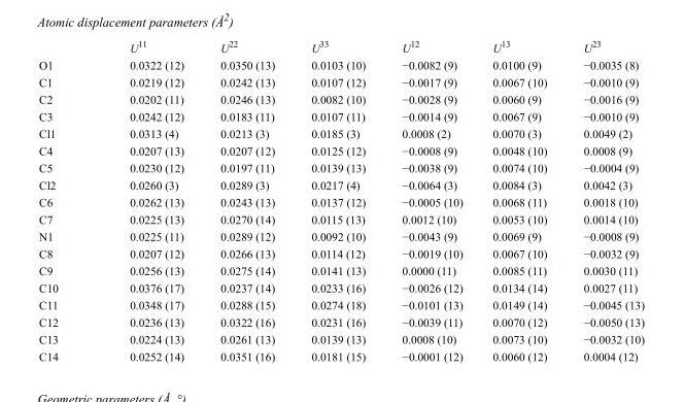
<table><thead><tr><td></td><td>U<sup>11</sup></td><td>U<sup>22</sup></td><td>U<sup>33</sup></td><td>U<sup>12</sup></td><td>U<sup>13</sup></td><td>U<sup>23</sup></td></tr></thead><tbody><tr><td>O1</td><td>0.0322 (12)</td><td>0.0350 (13)</td><td>0.0103 (10)</td><td>−0.0082 (9)</td><td>0.0100 (9)</td><td>−0.0035 (8)</td></tr><tr><td>C1</td><td>0.0219 (12)</td><td>0.0242 (13)</td><td>0.0107 (12)</td><td>−0.0017 (9)</td><td>0.0067 (10)</td><td>−0.0010 (9)</td></tr><tr><td>C2</td><td>0.0202 (11)</td><td>0.0246 (13)</td><td>0.0082 (10)</td><td>−0.0028 (9)</td><td>0.0060 (9)</td><td>−0.0016 (9)</td></tr><tr><td>C3</td><td>0.0242 (12)</td><td>0.0183 (11)</td><td>0.0107 (11)</td><td>−0.0014 (9)</td><td>0.0067 (9)</td><td>−0.0010 (9)</td></tr><tr><td>Cl1</td><td>0.0313 (4)</td><td>0.0213 (3)</td><td>0.0185 (3)</td><td>0.0008 (2)</td><td>0.0070 (3)</td><td>0.0049 (2)</td></tr><tr><td>C4</td><td>0.0207 (13)</td><td>0.0207 (12)</td><td>0.0125 (12)</td><td>−0.0008 (9)</td><td>0.0048 (10)</td><td>0.0008 (9)</td></tr><tr><td>C5</td><td>0.0230 (12)</td><td>0.0197 (11)</td><td>0.0139 (13)</td><td>−0.0038 (9)</td><td>0.0074 (10)</td><td>−0.0004 (9)</td></tr><tr><td>Cl2</td><td>0.0260 (3)</td><td>0.0289 (3)</td><td>0.0217 (4)</td><td>−0.0064 (3)</td><td>0.0084 (3)</td><td>0.0042 (3)</td></tr><tr><td>C6</td><td>0.0262 (13)</td><td>0.0243 (13)</td><td>0.0137 (12)</td><td>−0.0005 (10)</td><td>0.0068 (11)</td><td>0.0018 (10)</td></tr><tr><td>C7</td><td>0.0225 (13)</td><td>0.0270 (14)</td><td>0.0115 (13)</td><td>0.0012 (10)</td><td>0.0053 (10)</td><td>0.0014 (10)</td></tr><tr><td>N1</td><td>0.0225 (11)</td><td>0.0289 (12)</td><td>0.0092 (10)</td><td>−0.0043 (9)</td><td>0.0069 (9)</td><td>−0.0008 (9)</td></tr><tr><td>C8</td><td>0.0207 (12)</td><td>0.0266 (13)</td><td>0.0114 (12)</td><td>−0.0019 (10)</td><td>0.0067 (10)</td><td>−0.0032 (9)</td></tr><tr><td>C9</td><td>0.0256 (13)</td><td>0.0275 (14)</td><td>0.0141 (13)</td><td>0.0000 (11)</td><td>0.0085 (11)</td><td>0.0030 (11)</td></tr><tr><td>C10</td><td>0.0376 (17)</td><td>0.0237 (14)</td><td>0.0233 (16)</td><td>−0.0026 (12)</td><td>0.0134 (14)</td><td>0.0027 (11)</td></tr><tr><td>C11</td><td>0.0348 (17)</td><td>0.0288 (15)</td><td>0.0274 (18)</td><td>−0.0101 (13)</td><td>0.0149 (14)</td><td>−0.0045 (13)</td></tr><tr><td>C12</td><td>0.0236 (13)</td><td>0.0322 (16)</td><td>0.0231 (16)</td><td>−0.0039 (11)</td><td>0.0070 (12)</td><td>−0.0050 (13)</td></tr><tr><td>C13</td><td>0.0224 (13)</td><td>0.0261 (13)</td><td>0.0139 (13)</td><td>0.0008 (10)</td><td>0.0073 (10)</td><td>−0.0032 (10)</td></tr><tr><td>C14</td><td>0.0252 (14)</td><td>0.0351 (16)</td><td>0.0181 (15)</td><td>−0.0001 (12)</td><td>0.0060 (12)</td><td>0.0004 (12)</td></tr></tbody></table>